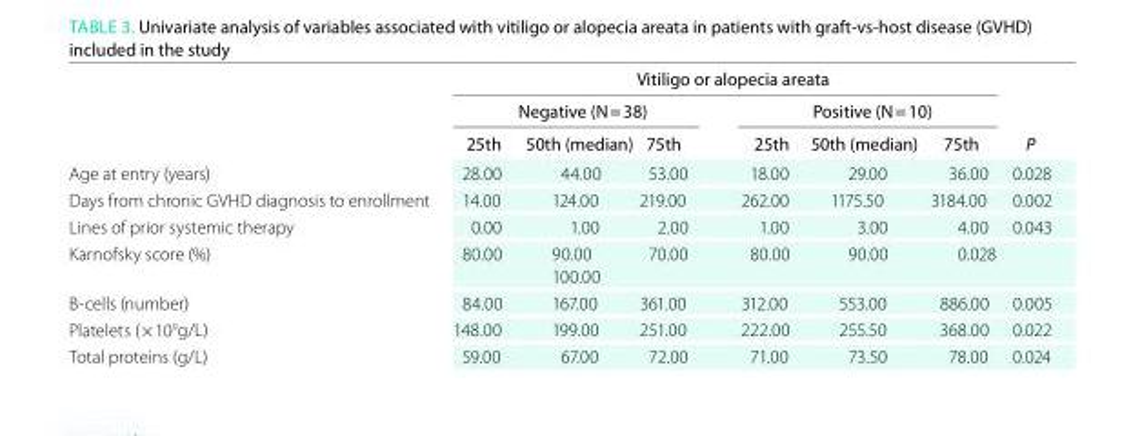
<table><thead><tr><td rowspan="3"></td><td colspan="6">Vitiligo or alopecia areata</td><td rowspan="3">P</td></tr><tr><td colspan="3">Negative (N = 38)</td><td colspan="3">Positive (N = 10)</td></tr><tr><td>25th</td><td>50th (median)</td><td>75th</td><td>25th</td><td>50th (median)</td><td>75th</td></tr></thead><tbody><tr><td>Age at entry (years)</td><td>28.00</td><td>44.00</td><td>53.00</td><td>18.00</td><td>29.00</td><td>36.00</td><td>0.028</td></tr><tr><td>Days from chronic GVHD diagnosis to enrollment</td><td>14.00</td><td>124.00</td><td>219.00</td><td>262.00</td><td>1175.50</td><td>3184.00</td><td>0.002</td></tr><tr><td>Lines of prior systemic therapy</td><td>0.00</td><td>1.00</td><td>2.00</td><td>1.00</td><td>3.00</td><td>4.00</td><td>0.043</td></tr><tr><td>Karnofsky score (%)</td><td>80.00</td><td>90.00 100.00</td><td>70.00</td><td>80.00</td><td>90.00</td><td>0.028</td><td></td></tr><tr><td>B-cells (number)</td><td>84.00</td><td>167.00</td><td>361.00</td><td>312.00</td><td>553.00</td><td>886.00</td><td>0.005</td></tr><tr><td>Platelets ( × 10<sup>9</sup>g/L)</td><td>148.00</td><td>199.00</td><td>251.00</td><td>222.00</td><td>255.50</td><td>368.00</td><td>0.022</td></tr><tr><td>Total proteins (g/L)</td><td>59.00</td><td>67.00</td><td>72.00</td><td>71.00</td><td>73.50</td><td>78.00</td><td>0.024</td></tr></tbody></table>